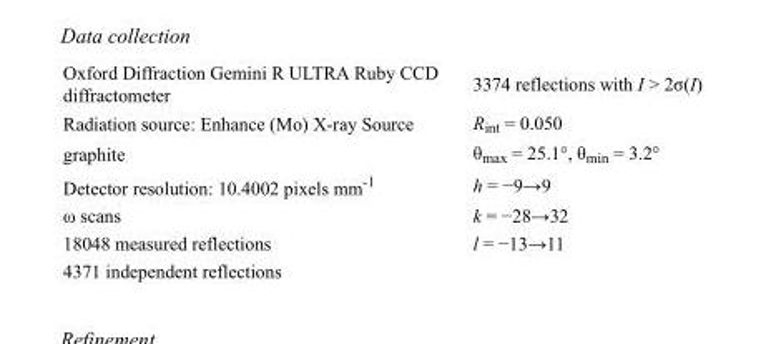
<table><tbody><tr><td>Oxford Diffraction Gemini R ULTRA Ruby CCD diffractometer</td><td>3374 reflections with I &gt; 2σ(I)</td></tr><tr><td>Radiation source: Enhance (Mo) X-ray Source</td><td>R<sub>int</sub> = 0.050</td></tr><tr><td>graphite</td><td>θ<sub>max</sub> = 25.1°, θ<sub>min</sub> = 3.2°</td></tr><tr><td>Detector resolution: 10.4002 pixels mm<sup>-1</sup></td><td>h = −9→9</td></tr><tr><td>ω scans</td><td>k = −28→32</td></tr><tr><td>18048 measured reflections</td><td>l = −13→11</td></tr><tr><td>4371 independent reflections</td><td></td></tr></tbody></table>